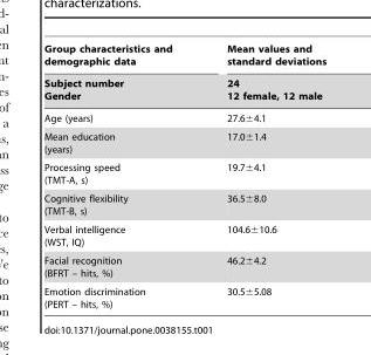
<table><thead><tr><td rowspan="2">Group characteristics and demographic data Subject number Gender</td><td rowspan="2">Mean values and standard deviations 24 12 female, 12 male</td></tr><tr></tr></thead><tbody><tr><td>Age (years)</td><td>27.6±4.1</td></tr><tr><td>Mean education (years)</td><td>17.0±1.4</td></tr><tr><td>Processing speed (TMT-A, s)</td><td>19.7±4.1</td></tr><tr><td>Cognitive flexibility (TMT-B, s)</td><td>36.5±8.0</td></tr><tr><td>Verbal intelligence (WST, IQ)</td><td>104.6±10.6</td></tr><tr><td>Facial recognition (BFRT – hits, %)</td><td>46.2±4.2</td></tr><tr><td>Emotion discrimination (PERT – hits, %)</td><td>30.5±5.08</td></tr></tbody></table>